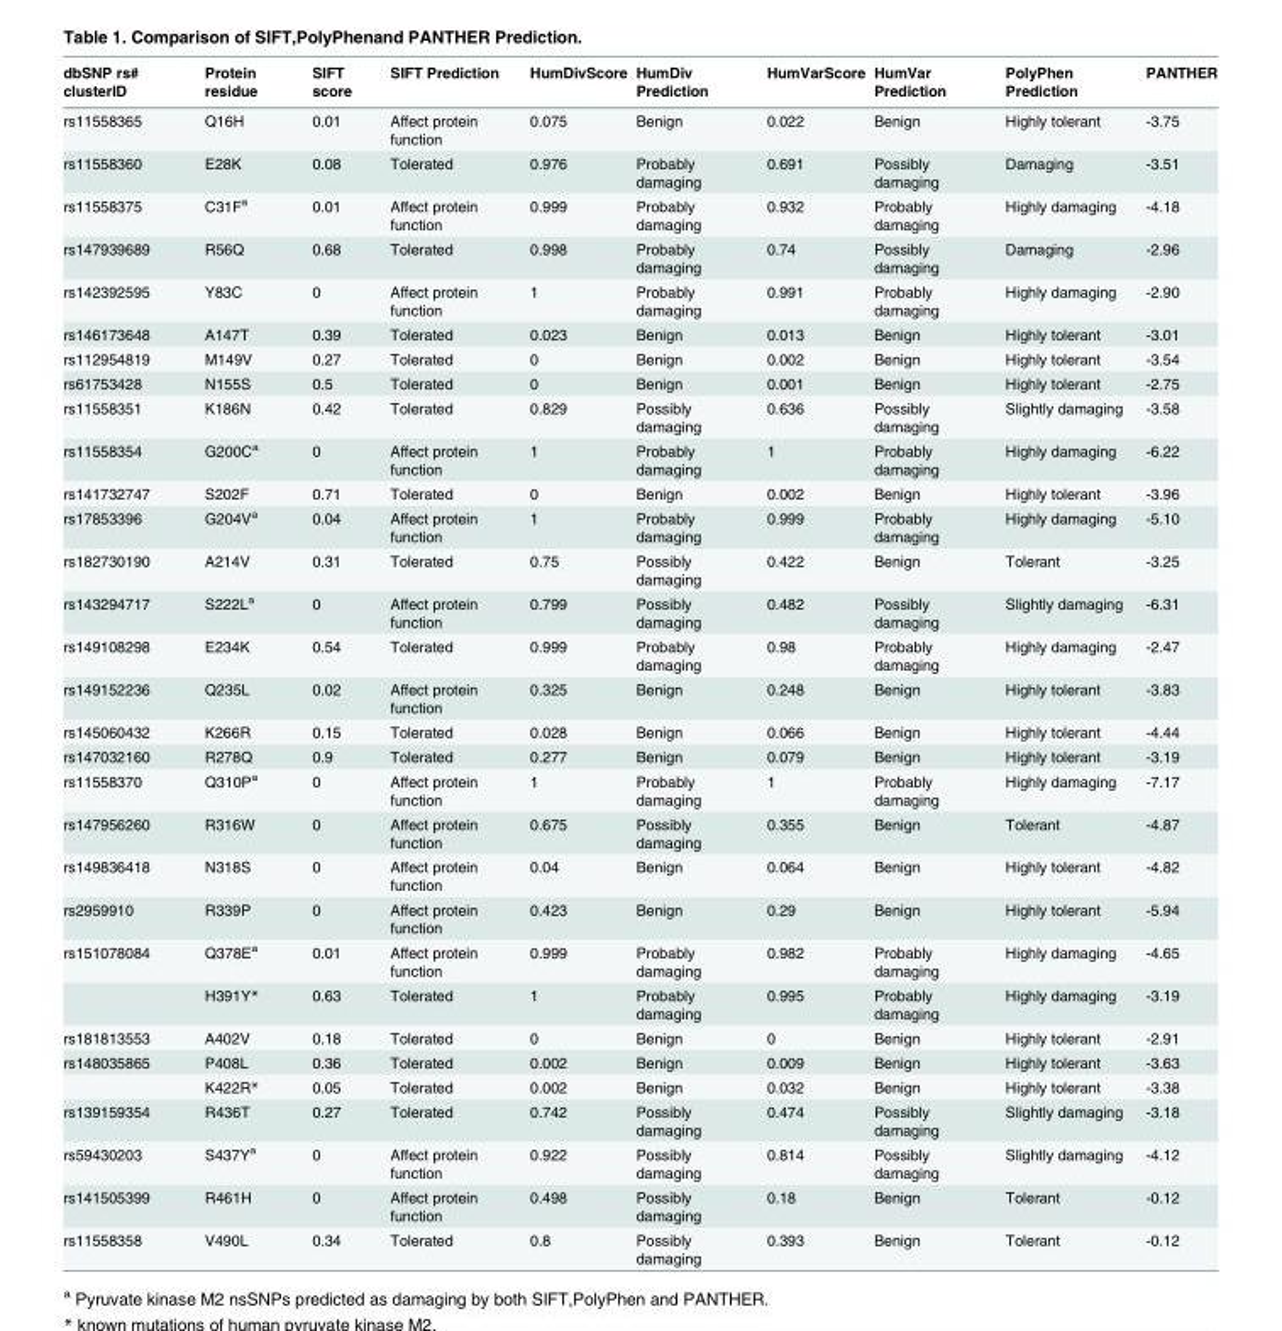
<table><thead><tr><td>dbSNP rs# clusterID</td><td>Protein residue</td><td>SIFT score</td><td>SIFT Prediction</td><td>HumDivScore</td><td>HumDiv Prediction</td><td>HumVarScore</td><td>HumVar Prediction</td><td>PolyPhen Prediction</td><td>PANTHER</td></tr></thead><tbody><tr><td>rs11558365</td><td>Q16H</td><td>0.01</td><td>Affect protein function</td><td>0.075</td><td>Benign</td><td>0.022</td><td>Benign</td><td>Highly tolerant</td><td>-3.75</td></tr><tr><td>rs11558360</td><td>E28K</td><td>0.08</td><td>Tolerated</td><td>0.976</td><td>Probably damaging</td><td>0.691</td><td>Possibly damaging</td><td>Damaging</td><td>-3.51</td></tr><tr><td>rs11558375</td><td>C31F<sup>a</sup></td><td>0.01</td><td>Affect protein function</td><td>0.999</td><td>Probably damaging</td><td>0.932</td><td>Probably damaging</td><td>Highly damaging</td><td>-4.18</td></tr><tr><td>rs147939689</td><td>R56Q</td><td>0.68</td><td>Tolerated</td><td>0.998</td><td>Probably damaging</td><td>0.74</td><td>Possibly damaging</td><td>Damaging</td><td>-2.96</td></tr><tr><td>rs142392595</td><td>Y83C</td><td>0</td><td>Affect protein function</td><td>1</td><td>Probably damaging</td><td>0.991</td><td>Probably damaging</td><td>Highly damaging</td><td>-2.90</td></tr><tr><td>rs146173648</td><td>A147T</td><td>0.39</td><td>Tolerated</td><td>0.023</td><td>Benign</td><td>0.013</td><td>Benign</td><td>Highly tolerant</td><td>-3.01</td></tr><tr><td>rs112954819</td><td>M149V</td><td>0.27</td><td>Tolerated</td><td>0</td><td>Benign</td><td>0.002</td><td>Benign</td><td>Highly tolerant</td><td>-3.54</td></tr><tr><td>rs61753428</td><td>N155S</td><td>0.5</td><td>Tolerated</td><td>0</td><td>Benign</td><td>0.001</td><td>Benign</td><td>Highly tolerant</td><td>-2.75</td></tr><tr><td>rs11558351</td><td>K186N</td><td>0.42</td><td>Tolerated</td><td>0.829</td><td>Possibly damaging</td><td>0.636</td><td>Possibly damaging</td><td>Slightly damaging</td><td>-3.58</td></tr><tr><td>rs11558354</td><td>G200C<sup>a</sup></td><td>0</td><td>Affect protein function</td><td>1</td><td>Probably damaging</td><td>1</td><td>Probably damaging</td><td>Highly damaging</td><td>-6.22</td></tr><tr><td>rs141732747</td><td>S202F</td><td>0.71</td><td>Tolerated</td><td>0</td><td>Benign</td><td>0.002</td><td>Benign</td><td>Highly tolerant</td><td>-3.96</td></tr><tr><td>rs17853396</td><td>G204V<sup>a</sup></td><td>0.04</td><td>Affect protein function</td><td>1</td><td>Probably damaging</td><td>0.999</td><td>Probably damaging</td><td>Highly damaging</td><td>-5.10</td></tr><tr><td>rs182730190</td><td>A214V</td><td>0.31</td><td>Tolerated</td><td>0.75</td><td>Possibly damaging</td><td>0.422</td><td>Benign</td><td>Tolerant</td><td>-3.25</td></tr><tr><td>rs143294717</td><td>S222L<sup>a</sup></td><td>0</td><td>Affect protein function</td><td>0.799</td><td>Possibly damaging</td><td>0.482</td><td>Possibly damaging</td><td>Slightly damaging</td><td>-6.31</td></tr><tr><td>rs149108298</td><td>E234K</td><td>0.54</td><td>Tolerated</td><td>0.999</td><td>Probably damaging</td><td>0.98</td><td>Probably damaging</td><td>Highly damaging</td><td>-2.47</td></tr><tr><td>rs149152236</td><td>Q235L</td><td>0.02</td><td>Affect protein function</td><td>0.325</td><td>Benign</td><td>0.248</td><td>Benign</td><td>Highly tolerant</td><td>-3.83</td></tr><tr><td>rs145060432</td><td>K266R</td><td>0.15</td><td>Tolerated</td><td>0.028</td><td>Benign</td><td>0.066</td><td>Benign</td><td>Highly tolerant</td><td>-4.44</td></tr><tr><td>rs147032160</td><td>R278Q</td><td>0.9</td><td>Tolerated</td><td>0.277</td><td>Benign</td><td>0.079</td><td>Benign</td><td>Highly tolerant</td><td>-3.19</td></tr><tr><td>rs11558370</td><td>Q310P<sup>a</sup></td><td>0</td><td>Affect protein function</td><td>1</td><td>Probably damaging</td><td>1</td><td>Probably damaging</td><td>Highly damaging</td><td>-7.17</td></tr><tr><td>rs147956260</td><td>R316W</td><td>0</td><td>Affect protein function</td><td>0.675</td><td>Possibly damaging</td><td>0.355</td><td>Benign</td><td>Tolerant</td><td>-4.87</td></tr><tr><td>rs149836418</td><td>N318S</td><td>0</td><td>Affect protein function</td><td>0.04</td><td>Benign</td><td>0.064</td><td>Benign</td><td>Highly tolerant</td><td>-4.82</td></tr><tr><td>rs2959910</td><td>R339P</td><td>0</td><td>Affect protein function</td><td>0.423</td><td>Benign</td><td>0.29</td><td>Benign</td><td>Highly tolerant</td><td>-5.94</td></tr><tr><td rowspan="2">rs151078084</td><td>Q378E<sup>a</sup></td><td>0.01</td><td>Affect protein function</td><td>0.999</td><td>Probably damaging</td><td>0.982</td><td>Probably damaging</td><td>Highly damaging</td><td>-4.65</td></tr><tr><td>H391Y*</td><td>0.63</td><td>Tolerated</td><td>1</td><td>Probably damaging</td><td>0.995</td><td>Probably damaging</td><td>Highly damaging</td><td>-3.19</td></tr><tr><td>rs181813553</td><td>A402V</td><td>0.18</td><td>Tolerated</td><td>0</td><td>Benign</td><td>0</td><td>Benign</td><td>Highly tolerant</td><td>-2.91</td></tr><tr><td rowspan="2">rs148035865</td><td>P408L</td><td>0.36</td><td>Tolerated</td><td>0.002</td><td>Benign</td><td>0.009</td><td>Benign</td><td>Highly tolerant</td><td>-3.63</td></tr><tr><td>K422R*</td><td>0.05</td><td>Tolerated</td><td>0.002</td><td>Benign</td><td>0.032</td><td>Benign</td><td>Highly tolerant</td><td>-3.38</td></tr><tr><td>rs139159354</td><td>R436T</td><td>0.27</td><td>Tolerated</td><td>0.742</td><td>Possibly damaging</td><td>0.474</td><td>Possibly damaging</td><td>Slightly damaging</td><td>-3.18</td></tr><tr><td>rs59430203</td><td>S437Y<sup>a</sup></td><td>0</td><td>Affect protein function</td><td>0.922</td><td>Possibly damaging</td><td>0.814</td><td>Possibly damaging</td><td>Slightly damaging</td><td>-4.12</td></tr><tr><td>rs141505399</td><td>R461H</td><td>0</td><td>Affect protein function</td><td>0.498</td><td>Possibly damaging</td><td>0.18</td><td>Benign</td><td>Tolerant</td><td>-0.12</td></tr><tr><td>rs11558358</td><td>V490L</td><td>0.34</td><td>Tolerated</td><td>0.8</td><td>Possibly damaging</td><td>0.393</td><td>Benign</td><td>Tolerant</td><td>-0.12</td></tr></tbody></table>